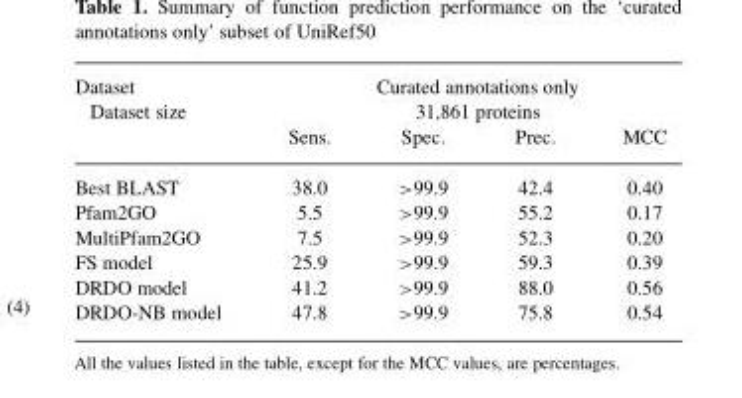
<table><thead><tr><td rowspan="3">Dataset Dataset size</td><td rowspan="3">Sens.</td><td rowspan="2" colspan="2">Curated annotations only 31,861 proteins</td><td rowspan="3">MCC</td></tr><tr></tr><tr><td>Spec.</td><td>Prec.</td></tr></thead><tbody><tr><td>Best BLAST</td><td>38.0</td><td>&gt;99.9</td><td>42.4</td><td>0.40</td></tr><tr><td>Pfam2GO</td><td>5.5</td><td>&gt;99.9</td><td>55.2</td><td>0.17</td></tr><tr><td>MultiPfam2GO</td><td>7.5</td><td>&gt;99.9</td><td>52.3</td><td>0.20</td></tr><tr><td>FS model</td><td>25.9</td><td>&gt;99.9</td><td>59.3</td><td>0.39</td></tr><tr><td>DRDO model</td><td>41.2</td><td>&gt;99.9</td><td>88.0</td><td>0.56</td></tr><tr><td>DRDO-NB model</td><td>47.8</td><td>&gt;99.9</td><td>75.8</td><td>0.54</td></tr></tbody></table>